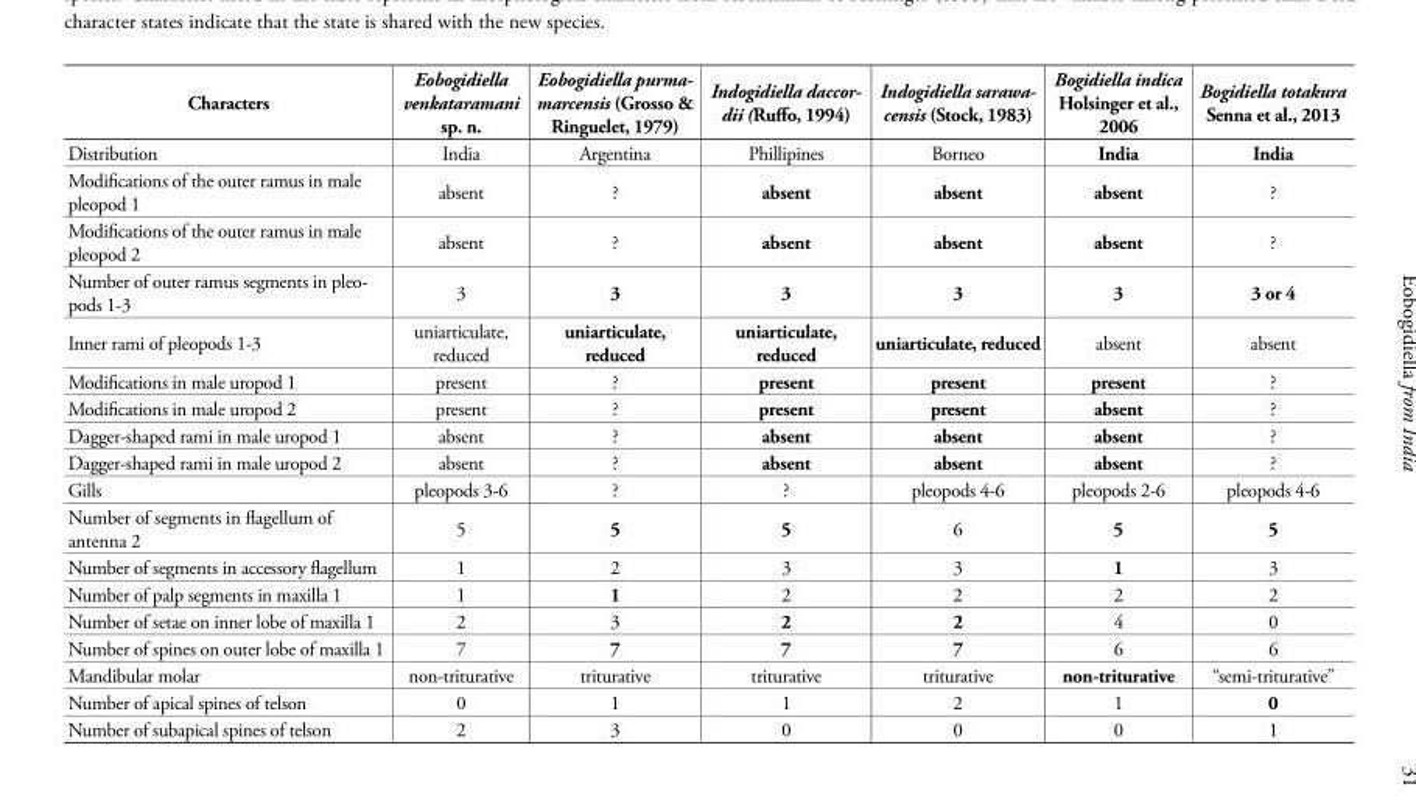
<table><thead><tr><td>Characters</td><td>Eobogidiella venkataramani sp. n.</td><td>Eobogidiella purma- marcensis (Grosso &amp; Ringuelet, 1979)</td><td>Indogidiella daccor- dii (Ruffo, 1994)</td><td>Indogidiella sarawa- censis (Stock, 1983)</td><td>Bogidiella indica Holsinger et al., 2006</td><td>Bogidiella totakura Senna et al., 2013</td></tr></thead><tbody><tr><td>Distribution</td><td>India</td><td>Argentina</td><td>Phillipines</td><td>Borneo</td><td>India</td><td>India</td></tr><tr><td>Modifications of the outer ramus in male pleopod 1</td><td>absent</td><td>?</td><td>absent</td><td>absent</td><td>absent</td><td>?</td></tr><tr><td>Modifications of the outer ramus in male pleopod 2</td><td>absent</td><td>?</td><td>absent</td><td>absent</td><td>absent</td><td>?</td></tr><tr><td>Number of outer ramus segments in pleo- pods 1-3</td><td>3</td><td>3</td><td>3</td><td>3</td><td>3</td><td>3 or 4</td></tr><tr><td>Inner rami of pleopods 1-3</td><td>uniarticulate, reduced</td><td>uniarticulate, reduced</td><td>uniarticulate, reduced</td><td>uniarticulate, reduced</td><td>absent</td><td>absent</td></tr><tr><td>Modifications in male uropod 1</td><td>present</td><td>?</td><td>present</td><td>present</td><td>present</td><td>?</td></tr><tr><td>Modifications in male uropod 2</td><td>present</td><td>?</td><td>present</td><td>present</td><td>absent</td><td>?</td></tr><tr><td>Dagger-shaped rami in male uropod 1</td><td>absent</td><td>?</td><td>absent</td><td>absent</td><td>absent</td><td>?</td></tr><tr><td>Dagger-shaped rami in male uropod 2</td><td>absent</td><td>?</td><td>absent</td><td>absent</td><td>absent</td><td>?</td></tr><tr><td>Gills</td><td>pleopods 3-6</td><td>?</td><td>?</td><td>pleopods 4-6</td><td>pleopods 2-6</td><td>pleopods 4-6</td></tr><tr><td>Number of segments in flagellum of antenna 2</td><td>5</td><td>5</td><td>5</td><td>6</td><td>5</td><td>5</td></tr><tr><td>Number of segments in accessory flagellum</td><td>1</td><td>2</td><td>3</td><td>3</td><td>1</td><td>3</td></tr><tr><td>Number of palp segments in maxilla 1</td><td>1</td><td>1</td><td>2</td><td>2</td><td>2</td><td>2</td></tr><tr><td>Number of setae on inner lobe of maxilla 1</td><td>2</td><td>3</td><td>2</td><td>2</td><td>4</td><td>0</td></tr><tr><td>Number of spines on outer lobe of maxilla 1</td><td>7</td><td>7</td><td>7</td><td>7</td><td>6</td><td>6</td></tr><tr><td>Mandibular molar</td><td>non-triturative</td><td>triturative</td><td>triturative</td><td>triturative</td><td>non-triturative</td><td>“semi-triturative”</td></tr><tr><td>Number of apical spines of telson</td><td>0</td><td>1</td><td>1</td><td>2</td><td>1</td><td>0</td></tr><tr><td>Number of subapical spines of telson</td><td>2</td><td>3</td><td>0</td><td>0</td><td>0</td><td>1</td></tr></tbody></table>